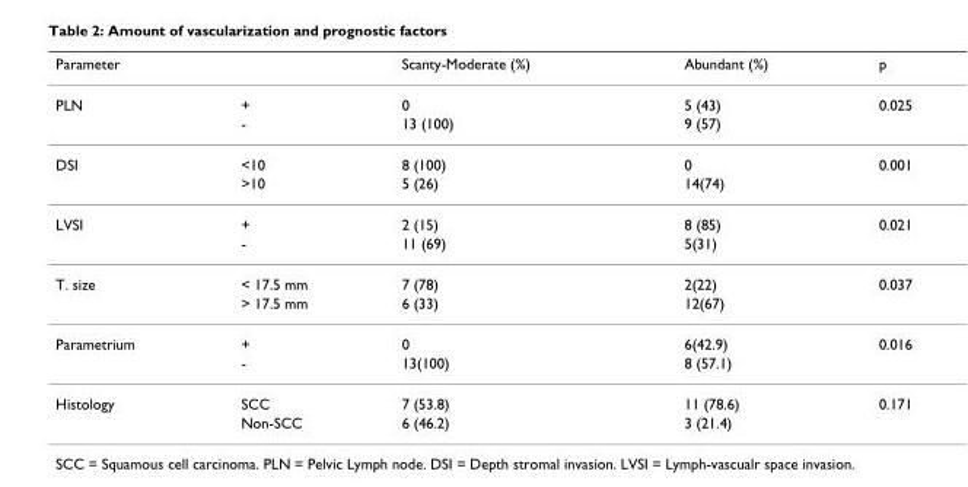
<table><thead><tr><td>Parameter</td><td></td><td>Scanty-Moderate (%)</td><td>Abundant (%)</td><td>p</td></tr></thead><tbody><tr><td rowspan="2">PLN</td><td>+</td><td>0</td><td>5 (43)</td><td>0.025</td></tr><tr><td>-</td><td>13 (100)</td><td>9 (57)</td><td></td></tr><tr><td rowspan="2">DSI</td><td>&lt;10</td><td>8 (100)</td><td>0</td><td>0.001</td></tr><tr><td>&gt;10</td><td>5 (26)</td><td>14(74)</td><td></td></tr><tr><td rowspan="2">LVSI</td><td>+</td><td>2 (15)</td><td>8 (85)</td><td>0.021</td></tr><tr><td>-</td><td>11 (69)</td><td>5(31)</td><td></td></tr><tr><td rowspan="2">T. size</td><td>&lt; 17.5 mm</td><td>7 (78)</td><td>2(22)</td><td>0.037</td></tr><tr><td>&gt; 17.5 mm</td><td>6 (33)</td><td>12(67)</td><td></td></tr><tr><td rowspan="2">Parametrium</td><td>+</td><td>0</td><td>6(42.9)</td><td>0.016</td></tr><tr><td>-</td><td>13(100)</td><td>8 (57.1)</td><td></td></tr><tr><td rowspan="2">Histology</td><td>SCC</td><td>7 (53.8)</td><td>11 (78.6)</td><td>0.171</td></tr><tr><td>Non-SCC</td><td>6 (46.2)</td><td>3 (21.4)</td><td></td></tr></tbody></table>